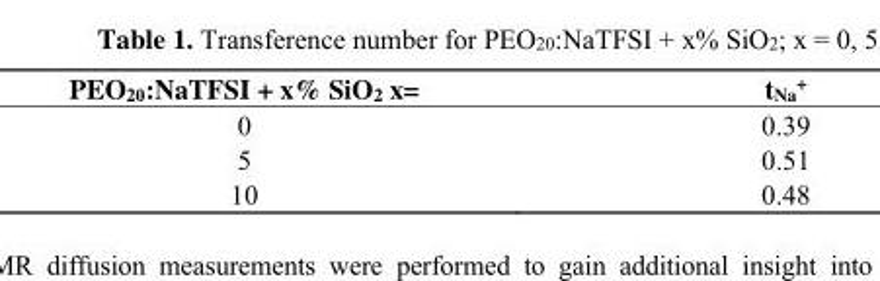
<table><thead><tr><td>PEO<sub>20</sub>:NaTFSI + x% SiO<sub>2</sub> x=</td><td>t<sub>Na</sub><sup>+</sup></td></tr></thead><tbody><tr><td>0</td><td>0.39</td></tr><tr><td>5</td><td>0.51</td></tr><tr><td>10</td><td>0.48</td></tr></tbody></table>